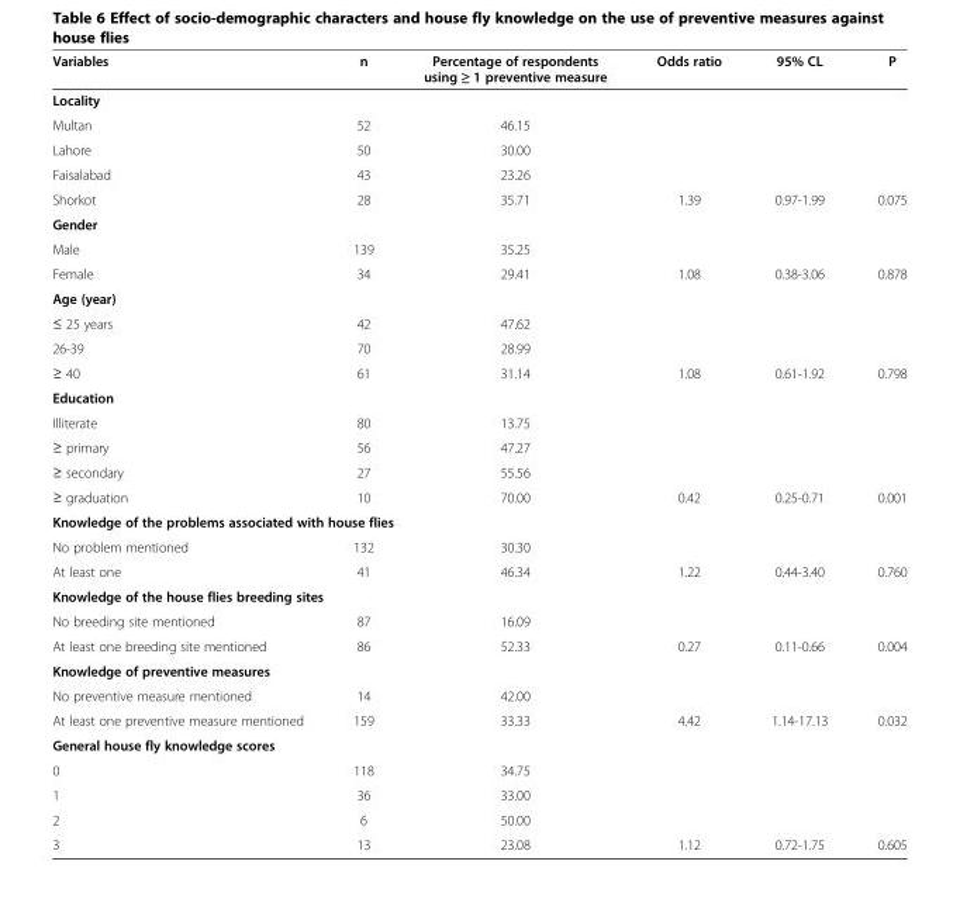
<table><thead><tr><td>Variables</td><td>n</td><td>Percentage of respondents using ≥ 1 preventive measure</td><td>Odds ratio</td><td>95% CL</td><td>P</td></tr></thead><tbody><tr><td colspan="6">Locality</td></tr><tr><td>Multan</td><td>52</td><td>46.15</td><td></td><td></td><td></td></tr><tr><td>Lahore</td><td>50</td><td>30.00</td><td></td><td></td><td></td></tr><tr><td>Faisalabad</td><td>43</td><td>23.26</td><td></td><td></td><td></td></tr><tr><td>Shorkot</td><td>28</td><td>35.71</td><td>1.39</td><td>0.97-1.99</td><td>0.075</td></tr><tr><td colspan="6">Gender</td></tr><tr><td>Male</td><td>139</td><td>35.25</td><td></td><td></td><td></td></tr><tr><td>Female</td><td>34</td><td>29.41</td><td>1.08</td><td>0.38-3.06</td><td>0.878</td></tr><tr><td colspan="6">Age (year)</td></tr><tr><td>≤ 25 years</td><td>42</td><td>47.62</td><td></td><td></td><td></td></tr><tr><td>26-39</td><td>70</td><td>28.99</td><td></td><td></td><td></td></tr><tr><td>≥ 40</td><td>61</td><td>31.14</td><td>1.08</td><td>0.61-1.92</td><td>0.798</td></tr><tr><td colspan="6">Education</td></tr><tr><td>Illiterate</td><td>80</td><td>13.75</td><td></td><td></td><td></td></tr><tr><td>≥ primary</td><td>56</td><td>47.27</td><td></td><td></td><td></td></tr><tr><td>≥ secondary</td><td>27</td><td>55.56</td><td></td><td></td><td></td></tr><tr><td>≥ graduation</td><td>10</td><td>70.00</td><td>0.42</td><td>0.25-0.71</td><td>0.001</td></tr><tr><td colspan="6">Knowledge of the problems associated with house flies</td></tr><tr><td>No problem mentioned</td><td>132</td><td>30.30</td><td></td><td></td><td></td></tr><tr><td>At least one</td><td>41</td><td>46.34</td><td>1.22</td><td>0.44-3.40</td><td>0.760</td></tr><tr><td colspan="6">Knowledge of the house flies breeding sites</td></tr><tr><td>No breeding site mentioned</td><td>87</td><td>16.09</td><td></td><td></td><td></td></tr><tr><td>At least one breeding site mentioned</td><td>86</td><td>52.33</td><td>0.27</td><td>0.11-0.66</td><td>0.004</td></tr><tr><td colspan="6">Knowledge of preventive measures</td></tr><tr><td>No preventive measure mentioned</td><td>14</td><td>42.00</td><td></td><td></td><td></td></tr><tr><td>At least one preventive measure mentioned</td><td>159</td><td>33.33</td><td>4.42</td><td>1.14-17.13</td><td>0.032</td></tr><tr><td colspan="6">General house fly knowledge scores</td></tr><tr><td>0</td><td>118</td><td>34.75</td><td></td><td></td><td></td></tr><tr><td>1</td><td>36</td><td>33.00</td><td></td><td></td><td></td></tr><tr><td>2</td><td>6</td><td>50.00</td><td></td><td></td><td></td></tr><tr><td>3</td><td>13</td><td>23.08</td><td>1.12</td><td>0.72-1.75</td><td>0.605</td></tr></tbody></table>